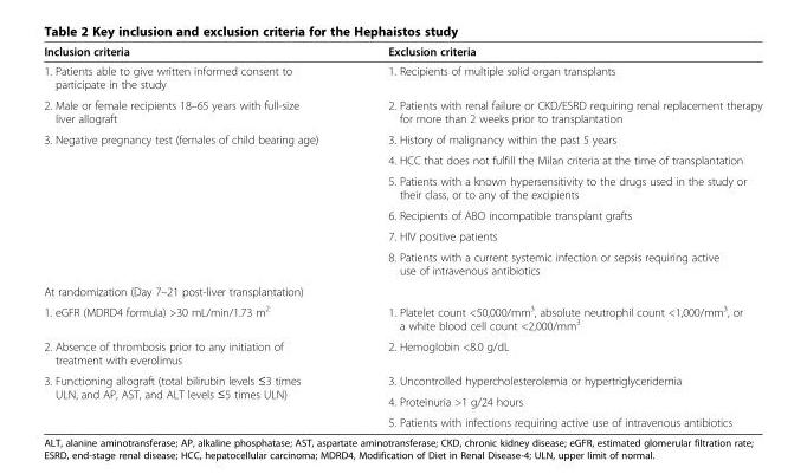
<table><thead><tr><td>Inclusion criteria</td><td>Exclusion criteria</td></tr></thead><tbody><tr><td>1. Patients able to give written informed consent to participate in the study</td><td>1. Recipients of multiple solid organ transplants</td></tr><tr><td>2. Male or female recipients 18–65 years with full-size liver allograft</td><td>2. Patients with renal failure or CKD/ESRD requiring renal replacement therapy for more than 2 weeks prior to transplantation</td></tr><tr><td rowspan="6">3. Negative pregnancy test (females of child bearing age)</td><td>3. History of malignancy within the past 5 years</td></tr><tr><td>4. HCC that does not fulfill the Milan criteria at the time of transplantation</td></tr><tr><td>5. Patients with a known hypersensitivity to the drugs used in the study or their class, or to any of the excipients</td></tr><tr><td>6. Recipients of ABO incompatible transplant grafts</td></tr><tr><td>7. HIV positive patients</td></tr><tr><td>8. Patients with a current systemic infection or sepsis requiring active use of intravenous antibiotics</td></tr><tr><td colspan="2">At randomization (Day 7–21 post-liver transplantation)</td></tr><tr><td>1. eGFR (MDRD4 formula) &gt;30 mL/min/1.73 m<sup>2</sup></td><td>1. Platelet count &lt;50,000/mm<sup>3</sup>, absolute neutrophil count &lt;1,000/mm<sup>3</sup>, or a white blood cell count &lt;2,000/mm<sup>3</sup></td></tr><tr><td>2. Absence of thrombosis prior to any initiation of treatment with everolimus</td><td>2. Hemoglobin &lt;8.0 g/dL</td></tr><tr><td rowspan="3">3. Functioning allograft (total bilirubin levels ≤3 times ULN, and AP, AST, and ALT levels ≤5 times ULN)</td><td>3. Uncontrolled hypercholesterolemia or hypertriglyceridemia</td></tr><tr><td>4. Proteinuria &gt;1 g/24 hours</td></tr><tr><td>5. Patients with infections requiring active use of intravenous antibiotics</td></tr></tbody></table>